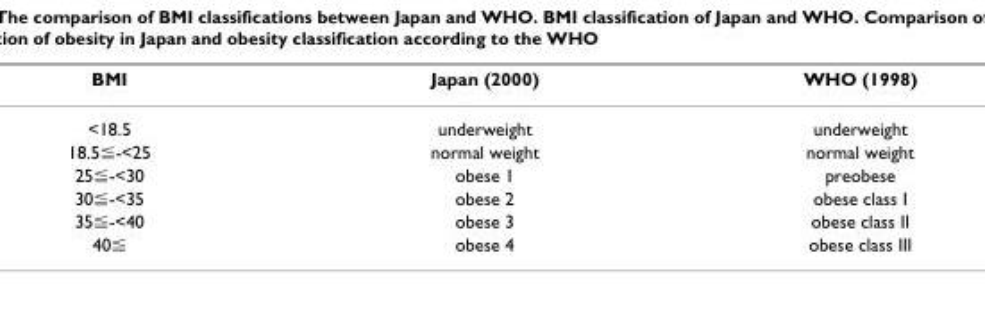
<table><thead><tr><td>BMI</td><td>Japan (2000)</td><td>WHO (1998)</td></tr></thead><tbody><tr><td>&lt;18.5</td><td>underweight</td><td>underweight</td></tr><tr><td>18.5≦-&lt;25</td><td>normal weight</td><td>normal weight</td></tr><tr><td>25≦-&lt;30</td><td>obese 1</td><td>preobese</td></tr><tr><td>30≦-&lt;35</td><td>obese 2</td><td>obese class I</td></tr><tr><td>35≦-&lt;40</td><td>obese 3</td><td>obese class II</td></tr><tr><td>40≦</td><td>obese 4</td><td>obese class III</td></tr></tbody></table>